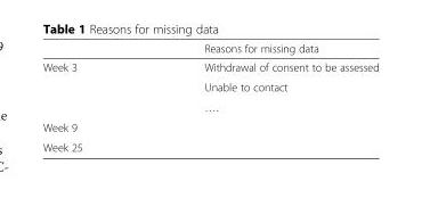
<table><thead><tr><td></td><td>Reasons for missing data</td></tr></thead><tbody><tr><td rowspan="3">Week 3</td><td>Withdrawal of consent to be assessed</td></tr><tr><td>Unable to contact</td></tr><tr><td>….</td></tr><tr><td colspan="2">Week 9</td></tr><tr><td>Week 25</td><td></td></tr></tbody></table>